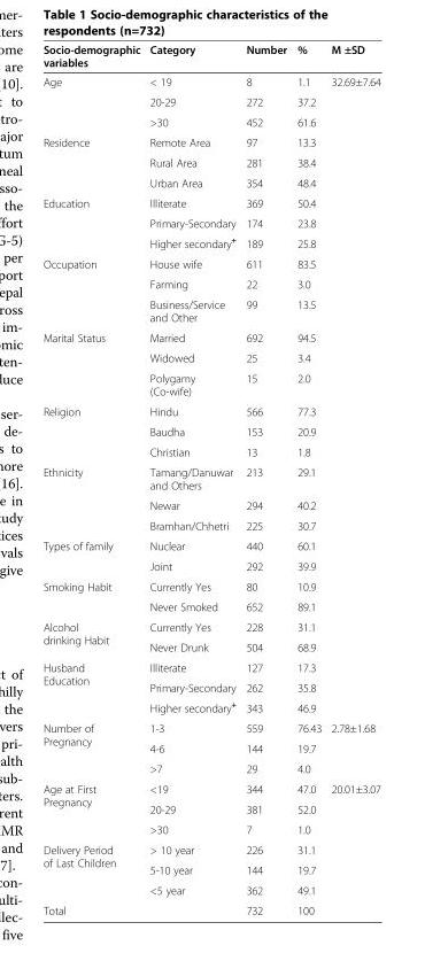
<table><thead><tr><td>Socio-demographic variables</td><td>Category</td><td>Number</td><td>%</td><td>M ±SD</td></tr></thead><tbody><tr><td rowspan="3">Age</td><td>&lt; 19</td><td>8</td><td>1.1</td><td>32.69±7.64</td></tr><tr><td>20-29</td><td>272</td><td>37.2</td><td></td></tr><tr><td>&gt;30</td><td>452</td><td>61.6</td><td></td></tr><tr><td rowspan="3">Residence</td><td>Remote Area</td><td>97</td><td>13.3</td><td></td></tr><tr><td>Rural Area</td><td>281</td><td>38.4</td><td></td></tr><tr><td>Urban Area</td><td>354</td><td>48.4</td><td></td></tr><tr><td rowspan="3">Education</td><td>Illiterate</td><td>369</td><td>50.4</td><td></td></tr><tr><td>Primary-Secondary</td><td>174</td><td>23.8</td><td></td></tr><tr><td>Higher secondary<sup>+</sup></td><td>189</td><td>25.8</td><td></td></tr><tr><td rowspan="3">Occupation</td><td>House wife</td><td>611</td><td>83.5</td><td></td></tr><tr><td>Farming</td><td>22</td><td>3.0</td><td></td></tr><tr><td>Business/Service and Other</td><td>99</td><td>13.5</td><td></td></tr><tr><td rowspan="3">Marital Status</td><td>Married</td><td>692</td><td>94.5</td><td></td></tr><tr><td>Widowed</td><td>25</td><td>3.4</td><td></td></tr><tr><td>Polygamy (Co-wife)</td><td>15</td><td>2.0</td><td></td></tr><tr><td rowspan="3">Religion</td><td>Hindu</td><td>566</td><td>77.3</td><td></td></tr><tr><td>Baudha</td><td>153</td><td>20.9</td><td></td></tr><tr><td>Christian</td><td>13</td><td>1.8</td><td></td></tr><tr><td rowspan="3">Ethnicity</td><td>Tamang/Danuwar and Others</td><td>213</td><td>29.1</td><td></td></tr><tr><td>Newar</td><td>294</td><td>40.2</td><td></td></tr><tr><td>Bramhan/Chhetri</td><td>225</td><td>30.7</td><td></td></tr><tr><td rowspan="2">Types of family</td><td>Nuclear</td><td>440</td><td>60.1</td><td></td></tr><tr><td>Joint</td><td>292</td><td>39.9</td><td></td></tr><tr><td rowspan="2">Smoking Habit</td><td>Currently Yes</td><td>80</td><td>10.9</td><td></td></tr><tr><td>Never Smoked</td><td>652</td><td>89.1</td><td></td></tr><tr><td rowspan="2">Alcohol drinking Habit</td><td>Currently Yes</td><td>228</td><td>31.1</td><td></td></tr><tr><td>Never Drunk</td><td>504</td><td>68.9</td><td></td></tr><tr><td rowspan="3">Husband Education</td><td>Illiterate</td><td>127</td><td>17.3</td><td></td></tr><tr><td>Primary-Secondary</td><td>262</td><td>35.8</td><td></td></tr><tr><td>Higher secondary<sup>+</sup></td><td>343</td><td>46.9</td><td></td></tr><tr><td rowspan="3">Number of Pregnancy</td><td>1-3</td><td>559</td><td>76.43</td><td>2.78±1.68</td></tr><tr><td>4-6</td><td>144</td><td>19.7</td><td></td></tr><tr><td>&gt;7</td><td>29</td><td>4.0</td><td></td></tr><tr><td rowspan="3">Age at First Pregnancy</td><td>&lt;19</td><td>344</td><td>47.0</td><td>20.01±3.07</td></tr><tr><td>20-29</td><td>381</td><td>52.0</td><td></td></tr><tr><td>&gt;30</td><td>7</td><td>1.0</td><td></td></tr><tr><td rowspan="3">Delivery Period of Last Children</td><td>&gt; 10 year</td><td>226</td><td>31.1</td><td></td></tr><tr><td>5-10 year</td><td>144</td><td>19.7</td><td></td></tr><tr><td>&lt;5 year</td><td>362</td><td>49.1</td><td></td></tr><tr><td>Total</td><td></td><td>732</td><td>100</td><td></td></tr></tbody></table>